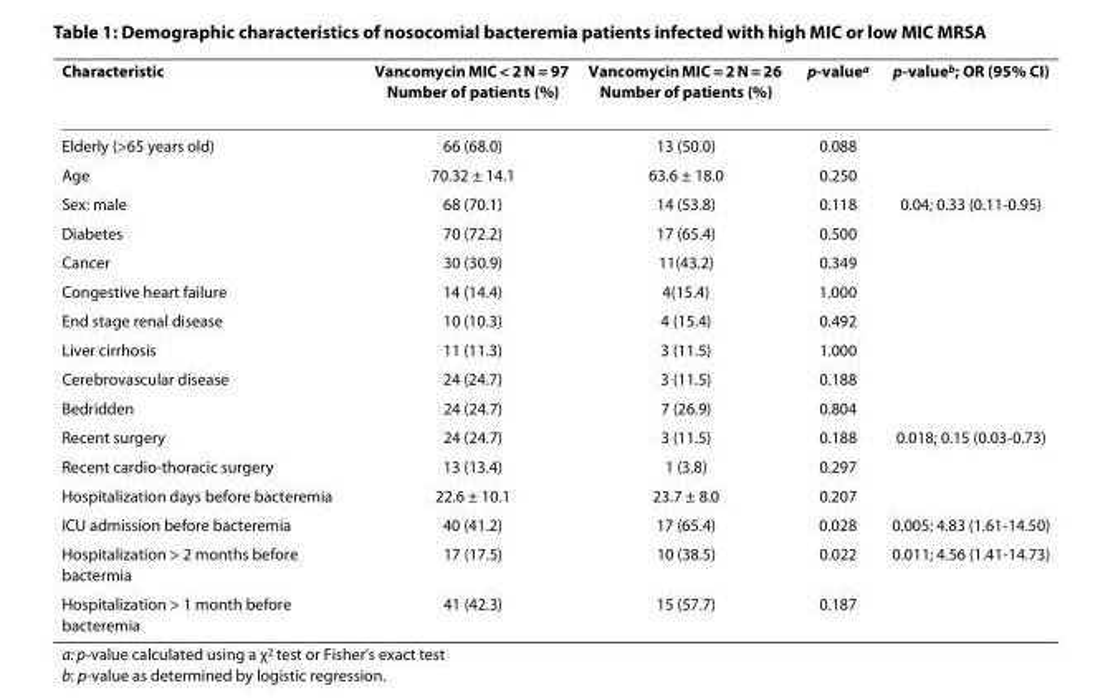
<table><thead><tr><td>Characteristic</td><td>Vancomycin MIC &lt; 2 N = 97 Number of patients (%)</td><td>Vancomycin MIC = 2 N = 26 Number of patients (%)</td><td>p-value<sup>a</sup></td><td>p-value<sup>b</sup>; OR (95% CI)</td></tr></thead><tbody><tr><td>Elderly (&gt;65 years old)</td><td>66 (68.0)</td><td>13 (50.0)</td><td>0.088</td><td></td></tr><tr><td>Age</td><td>70.32 ± 14.1</td><td>63.6 ± 18.0</td><td>0.250</td><td></td></tr><tr><td>Sex: male</td><td>68 (70.1)</td><td>14 (53.8)</td><td>0.118</td><td>0.04; 0.33 (0.11-0.95)</td></tr><tr><td>Diabetes</td><td>70 (72.2)</td><td>17 (65.4)</td><td>0.500</td><td></td></tr><tr><td>Cancer</td><td>30 (30.9)</td><td>11(43.2)</td><td>0.349</td><td></td></tr><tr><td>Congestive heart failure</td><td>14 (14.4)</td><td>4(15.4)</td><td>1.000</td><td></td></tr><tr><td>End stage renal disease</td><td>10 (10.3)</td><td>4 (15.4)</td><td>0.492</td><td></td></tr><tr><td>Liver cirrhosis</td><td>11 (11.3)</td><td>3 (11.5)</td><td>1.000</td><td></td></tr><tr><td>Cerebrovascular disease</td><td>24 (24.7)</td><td>3 (11.5)</td><td>0.188</td><td></td></tr><tr><td>Bedridden</td><td>24 (24.7)</td><td>7 (26.9)</td><td>0.804</td><td></td></tr><tr><td>Recent surgery</td><td>24 (24.7)</td><td>3 (11.5)</td><td>0.188</td><td>0.018; 0.15 (0.03-0.73)</td></tr><tr><td>Recent cardio-thoracic surgery</td><td>13 (13.4)</td><td>1 (3.8)</td><td>0.297</td><td></td></tr><tr><td>Hospitalization days before bacteremia</td><td>22.6 ± 10.1</td><td>23.7 ± 8.0</td><td>0.207</td><td></td></tr><tr><td>ICU admission before bacteremia</td><td>40 (41.2)</td><td>17 (65.4)</td><td>0.028</td><td>0.005; 4.83 (1.61-14.50)</td></tr><tr><td>Hospitalization &gt; 2 months before bactermia</td><td>17 (17.5)</td><td>10 (38.5)</td><td>0.022</td><td>0.011; 4.56 (1.41-14.73)</td></tr><tr><td>Hospitalization &gt; 1 month before bacteremia</td><td>41 (42.3)</td><td>15 (57.7)</td><td>0.187</td><td></td></tr></tbody></table>